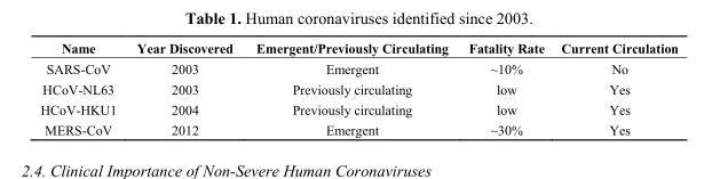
<table><thead><tr><td>Name</td><td>Year Discovered</td><td>Emergent/Previously Circulating</td><td>Fatality Rate</td><td>Current Circulation</td></tr></thead><tbody><tr><td>SARS-CoV</td><td>2003</td><td>Emergent</td><td>~10%</td><td>No</td></tr><tr><td>HCoV-NL63</td><td>2003</td><td>Previously circulating</td><td>low</td><td>Yes</td></tr><tr><td>HCoV-HKU1</td><td>2004</td><td>Previously circulating</td><td>low</td><td>Yes</td></tr><tr><td>MERS-CoV</td><td>2012</td><td>Emergent</td><td>~30%</td><td>Yes</td></tr></tbody></table>